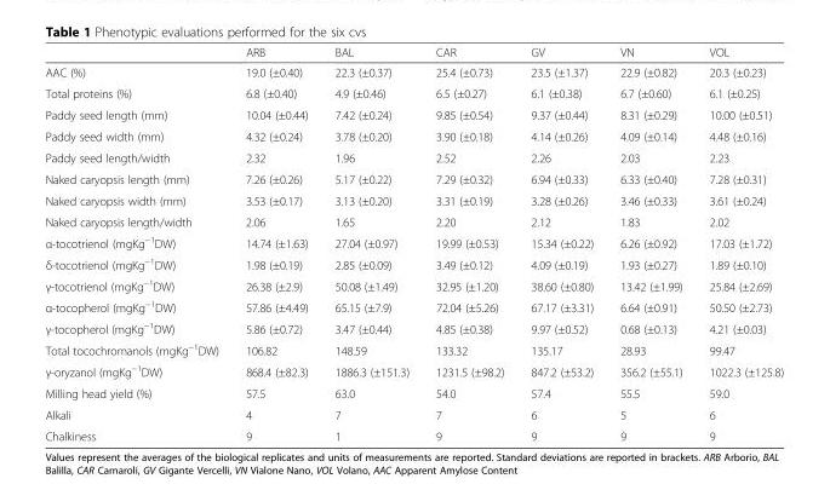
<table><thead><tr><td></td><td>ARB</td><td>BAL</td><td>CAR</td><td>GV</td><td>VN</td><td>VOL</td></tr></thead><tbody><tr><td>AAC (%)</td><td>19.0 (±0.40)</td><td>22.3 (±0.37)</td><td>25.4 (±0.73)</td><td>23.5 (±1.37)</td><td>22.9 (±0.82)</td><td>20.3 (±0.23)</td></tr><tr><td>Total proteins (%)</td><td>6.8 (±0.40)</td><td>4.9 (±0.46)</td><td>6.5 (±0.27)</td><td>6.1 (±0.38)</td><td>6.7 (±0.60)</td><td>6.1 (±0.25)</td></tr><tr><td>Paddy seed length (mm)</td><td>10.04 (±0.44)</td><td>7.42 (±0.24)</td><td>9.85 (±0.54)</td><td>9.37 (±0.44)</td><td>8.31 (±0.29)</td><td>10.00 (±0.51)</td></tr><tr><td>Paddy seed width (mm)</td><td>4.32 (±0.24)</td><td>3.78 (±0.20)</td><td>3.90 (±0.18)</td><td>4.14 (±0.26)</td><td>4.09 (±0.14)</td><td>4.48 (±0.16)</td></tr><tr><td>Paddy seed length/width</td><td>2.32</td><td>1.96</td><td>2.52</td><td>2.26</td><td>2.03</td><td>2.23</td></tr><tr><td>Naked caryopsis length (mm)</td><td>7.26 (±0.26)</td><td>5.17 (±0.22)</td><td>7.29 (±0.32)</td><td>6.94 (±0.33)</td><td>6.33 (±0.40)</td><td>7.28 (±0.31)</td></tr><tr><td>Naked caryopsis width (mm)</td><td>3.53 (±0.17)</td><td>3.13 (±0.20)</td><td>3.31 (±0.19)</td><td>3.28 (±0.26)</td><td>3.46 (±0.33)</td><td>3.61 (±0.24)</td></tr><tr><td>Naked caryopsis length/width</td><td>2.06</td><td>1.65</td><td>2.20</td><td>2.12</td><td>1.83</td><td>2.02</td></tr><tr><td>α-tocotrienol (mgKg<sup>−1</sup>DW)</td><td>14.74 (±1.63)</td><td>27.04 (±0.97)</td><td>19.99 (±0.53)</td><td>15.34 (±0.22)</td><td>6.26 (±0.92)</td><td>17.03 (±1.72)</td></tr><tr><td>δ-tocotrienol (mgKg<sup>−1</sup>DW)</td><td>1.98 (±0.19)</td><td>2.85 (±0.09)</td><td>3.49 (±0.12)</td><td>4.09 (±0.19)</td><td>1.93 (±0.27)</td><td>1.89 (±0.10)</td></tr><tr><td>γ-tocotrienol (mgKg<sup>−1</sup>DW)</td><td>26.38 (±2.9)</td><td>50.08 (±1.49)</td><td>32.95 (±1.20)</td><td>38.60 (±0.80)</td><td>13.42 (±1.99)</td><td>25.84 (±2.69)</td></tr><tr><td>α-tocopherol (mgKg<sup>−1</sup>DW)</td><td>57.86 (±4.49)</td><td>65.15 (±7.9)</td><td>72.04 (±5.26)</td><td>67.17 (±3.31)</td><td>6.64 (±0.91)</td><td>50.50 (±2.73)</td></tr><tr><td>γ-tocopherol (mgKg<sup>−1</sup>DW)</td><td>5.86 (±0.72)</td><td>3.47 (±0.44)</td><td>4.85 (±0.38)</td><td>9.97 (±0.52)</td><td>0.68 (±0.13)</td><td>4.21 (±0.03)</td></tr><tr><td>Total tocochromanols (mgKg<sup>−1</sup>DW)</td><td>106.82</td><td>148.59</td><td>133.32</td><td>135.17</td><td>28.93</td><td>99.47</td></tr><tr><td>γ-oryzanol (mgKg<sup>−1</sup>DW)</td><td>868.4 (±82.3)</td><td>1886.3 (±151.3)</td><td>1231.5 (±98.2)</td><td>847.2 (±53.2)</td><td>356.2 (±55.1)</td><td>1022.3 (±125.8)</td></tr><tr><td>Milling head yield (%)</td><td>57.5</td><td>63.0</td><td>54.0</td><td>57.4</td><td>55.5</td><td>59.0</td></tr><tr><td>Alkali</td><td>4</td><td>7</td><td>7</td><td>6</td><td>5</td><td>6</td></tr><tr><td>Chalkiness</td><td>9</td><td>1</td><td>9</td><td>9</td><td>9</td><td>9</td></tr></tbody></table>